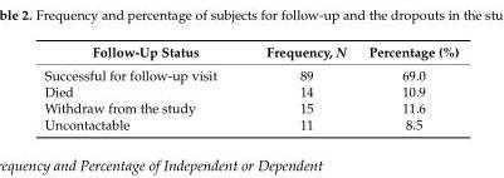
<table><thead><tr><td>Follow-Up Status</td><td>Frequency, N</td><td>Percentage (%)</td></tr></thead><tbody><tr><td>Successful for follow-up visit</td><td>89</td><td>69.0</td></tr><tr><td>Died</td><td>14</td><td>10.9</td></tr><tr><td>Withdraw from the study</td><td>15</td><td>11.6</td></tr><tr><td>Uncontactable</td><td>11</td><td>8.5</td></tr></tbody></table>